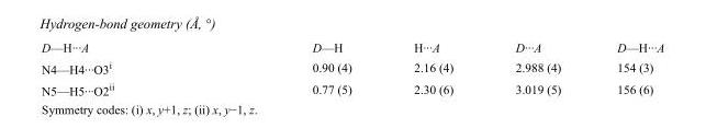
<table><tbody><tr><td>D—H···A</td><td>D—H</td><td>H···A</td><td>D···A</td><td>D—H···A</td></tr><tr><td>N4—H4···O3<sup>i</sup></td><td>0.90 (4)</td><td>2.16 (4)</td><td>2.988 (4)</td><td>154 (3)</td></tr><tr><td>N5—H5···O2<sup>ii</sup></td><td>0.77 (5)</td><td>2.30 (6)</td><td>3.019 (5)</td><td>156 (6)</td></tr></tbody></table>